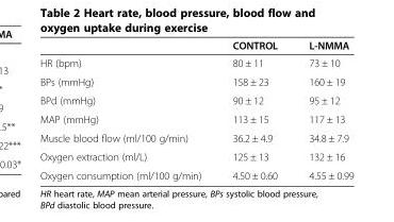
<table><thead><tr><td></td><td>CONTROL</td><td>L-NMMA</td></tr></thead><tbody><tr><td>HR (bpm)</td><td>80 ± 11</td><td>73 ± 10</td></tr><tr><td>BPs (mmHg)</td><td>158 ± 23</td><td>160 ± 19</td></tr><tr><td>BPd (mmHg)</td><td>90 ± 12</td><td>95 ± 12</td></tr><tr><td>MAP (mmHg)</td><td>113 ± 15</td><td>117 ± 13</td></tr><tr><td>Muscle blood flow (ml/100 g/min)</td><td>36.2 ± 4.9</td><td>34.8 ± 7.9</td></tr><tr><td>Oxygen extraction (ml/L)</td><td>125 ± 13</td><td>132 ± 16</td></tr><tr><td>Oxygen consumption (ml/100 g/min)</td><td>4.50 ± 0.60</td><td>4.55 ± 0.99</td></tr></tbody></table>